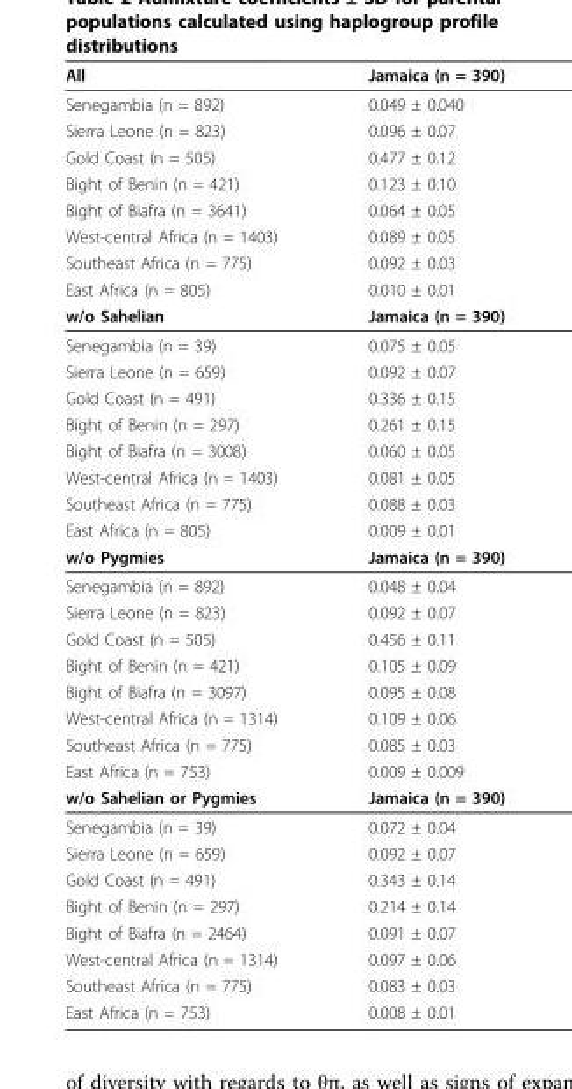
<table><thead><tr><td>All</td><td>Jamaica (n = 390)</td></tr></thead><tbody><tr><td>Senegambia (n = 892)</td><td>0.049 ± 0.040</td></tr><tr><td>Sierra Leone (n = 823)</td><td>0.096 ± 0.07</td></tr><tr><td>Gold Coast (n = 505)</td><td>0.477 ± 0.12</td></tr><tr><td>Bight of Benin (n = 421)</td><td>0.123 ± 0.10</td></tr><tr><td>Bight of Biafra (n = 3641)</td><td>0.064 ± 0.05</td></tr><tr><td>West-central Africa (n = 1403)</td><td>0.089 ± 0.05</td></tr><tr><td>Southeast Africa (n = 775)</td><td>0.092 ± 0.03</td></tr><tr><td>East Africa (n = 805)</td><td>0.010 ± 0.01</td></tr><tr><td>w/o Sahelian</td><td>Jamaica (n = 390)</td></tr><tr><td>Senegambia (n = 39)</td><td>0.075 ± 0.05</td></tr><tr><td>Sierra Leone (n = 659)</td><td>0.092 ± 0.07</td></tr><tr><td>Gold Coast (n = 491)</td><td>0.336 ± 0.15</td></tr><tr><td>Bight of Benin (n = 297)</td><td>0.261 ± 0.15</td></tr><tr><td>Bight of Biafra (n = 3008)</td><td>0.060 ± 0.05</td></tr><tr><td>West-central Africa (n = 1403)</td><td>0.081 ± 0.05</td></tr><tr><td>Southeast Africa (n = 775)</td><td>0.088 ± 0.03</td></tr><tr><td>East Africa (n = 805)</td><td>0.009 ± 0.01</td></tr><tr><td>w/o Pygmies</td><td>Jamaica (n = 390)</td></tr><tr><td>Senegambia (n = 892)</td><td>0.048 ± 0.04</td></tr><tr><td>Sierra Leone (n = 823)</td><td>0.092 ± 0.07</td></tr><tr><td>Gold Coast (n = 505)</td><td>0.456 ± 0.11</td></tr><tr><td>Bight of Benin (n = 421)</td><td>0.105 ± 0.09</td></tr><tr><td>Bight of Biafra (n = 3097)</td><td>0.095 ± 0.08</td></tr><tr><td>West-central Africa (n = 1314)</td><td>0.109 ± 0.06</td></tr><tr><td>Southeast Africa (n = 775)</td><td>0.085 ± 0.03</td></tr><tr><td>East Africa (n = 753)</td><td>0.009 ± 0.009</td></tr><tr><td>w/o Sahelian or Pygmies</td><td>Jamaica (n = 390)</td></tr><tr><td>Senegambia (n = 39)</td><td>0.072 ± 0.04</td></tr><tr><td>Sierra Leone (n = 659)</td><td>0.092 ± 0.07</td></tr><tr><td>Gold Coast (n = 491)</td><td>0.343 ± 0.14</td></tr><tr><td>Bight of Benin (n = 297)</td><td>0.214 ± 0.14</td></tr><tr><td>Bight of Biafra (n = 2464)</td><td>0.091 ± 0.07</td></tr><tr><td>West-central Africa (n = 1314)</td><td>0.097 ± 0.06</td></tr><tr><td>Southeast Africa (n = 775)</td><td>0.083 ± 0.03</td></tr><tr><td>East Africa (n = 753)</td><td>0.008 ± 0.01</td></tr></tbody></table>